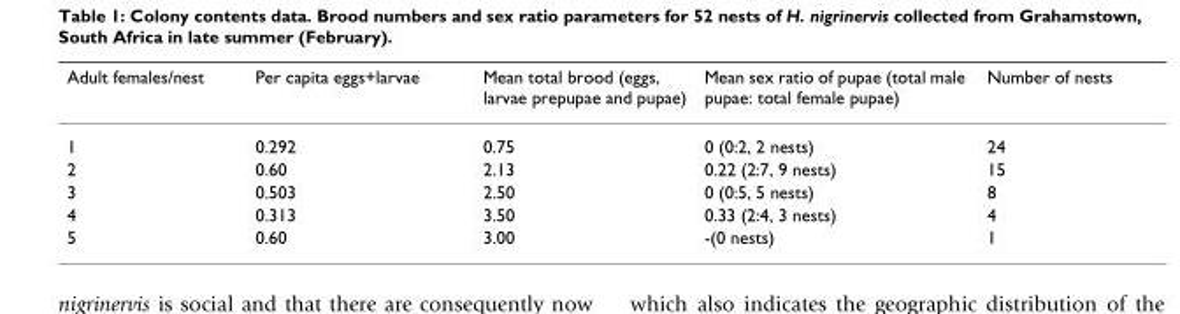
<table><thead><tr><td>Adult females/nest</td><td>Per capita eggs+larvae</td><td>Mean total brood (eggs, larvae prepupae and pupae)</td><td>Mean sex ratio of pupae (total male pupae: total female pupae)</td><td>Number of nests</td></tr></thead><tbody><tr><td>1</td><td>0.292</td><td>0.75</td><td>0 (0:2, 2 nests)</td><td>24</td></tr><tr><td>2</td><td>0.60</td><td>2.13</td><td>0.22 (2:7, 9 nests)</td><td>15</td></tr><tr><td>3</td><td>0.503</td><td>2.50</td><td>0 (0:5, 5 nests)</td><td>8</td></tr><tr><td>4</td><td>0.313</td><td>3.50</td><td>0.33 (2:4, 3 nests)</td><td>4</td></tr><tr><td>5</td><td>0.60</td><td>3.00</td><td>-(0 nests)</td><td>1</td></tr></tbody></table>